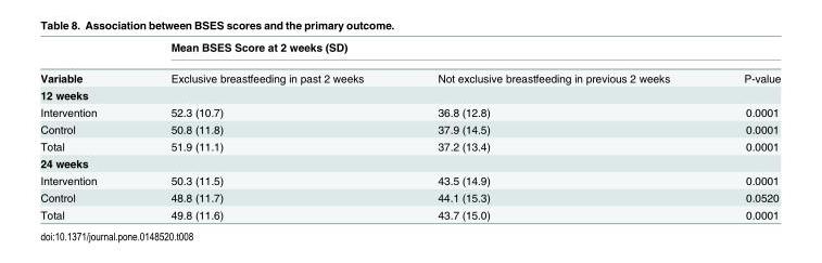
<table><thead><tr><td rowspan="2">Variable</td><td colspan="3">Mean BSES Score at 2 weeks (SD)</td></tr><tr><td>Exclusive breastfeeding in past 2 weeks</td><td>Not exclusive breastfeeding in previous 2 weeks</td><td>P-value</td></tr></thead><tbody><tr><td colspan="4">12 weeks</td></tr><tr><td>Intervention</td><td>52.3 (10.7)</td><td>36.8 (12.8)</td><td>0.0001</td></tr><tr><td>Control</td><td>50.8 (11.8)</td><td>37.9 (14.5)</td><td>0.0001</td></tr><tr><td>Total</td><td>51.9 (11.1)</td><td>37.2 (13.4)</td><td>0.0001</td></tr><tr><td colspan="4">24 weeks</td></tr><tr><td>Intervention</td><td>50.3 (11.5)</td><td>43.5 (14.9)</td><td>0.0001</td></tr><tr><td>Control</td><td>48.8 (11.7)</td><td>44.1 (15.3)</td><td>0.0520</td></tr><tr><td>Total</td><td>49.8 (11.6)</td><td>43.7 (15.0)</td><td>0.0001</td></tr></tbody></table>